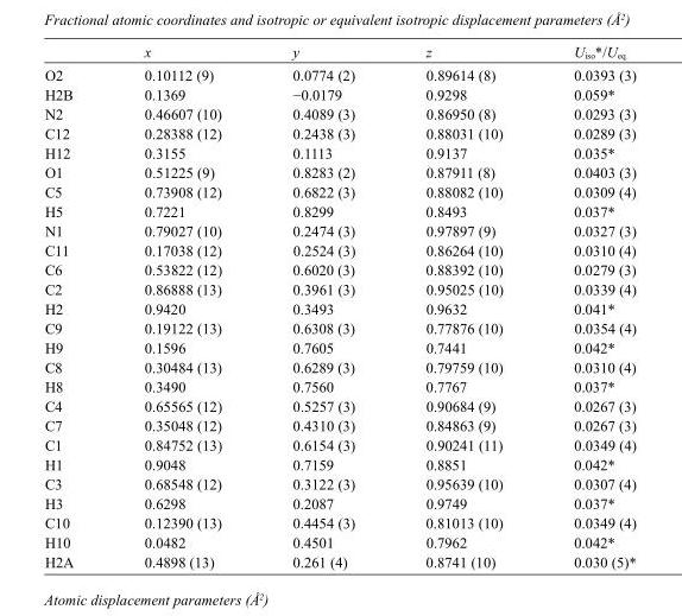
<table><thead><tr><td></td><td>x</td><td>y</td><td>z</td><td>U<sub>iso</sub>*/U<sub>eq</sub></td></tr></thead><tbody><tr><td>O2</td><td>0.10112 (9)</td><td>0.0774 (2)</td><td>0.89614 (8)</td><td>0.0393 (3)</td></tr><tr><td>H2B</td><td>0.1369</td><td>−0.0179</td><td>0.9298</td><td>0.059*</td></tr><tr><td>N2</td><td>0.46607 (10)</td><td>0.4089 (3)</td><td>0.86950 (8)</td><td>0.0293 (3)</td></tr><tr><td>C12</td><td>0.28388 (12)</td><td>0.2438 (3)</td><td>0.88031 (10)</td><td>0.0289 (3)</td></tr><tr><td>H12</td><td>0.3155</td><td>0.1113</td><td>0.9137</td><td>0.035*</td></tr><tr><td>O1</td><td>0.51225 (9)</td><td>0.8283 (2)</td><td>0.87911 (8)</td><td>0.0403 (3)</td></tr><tr><td>C5</td><td>0.73908 (12)</td><td>0.6822 (3)</td><td>0.88082 (10)</td><td>0.0309 (4)</td></tr><tr><td>H5</td><td>0.7221</td><td>0.8299</td><td>0.8493</td><td>0.037*</td></tr><tr><td>N1</td><td>0.79027 (10)</td><td>0.2474 (3)</td><td>0.97897 (9)</td><td>0.0327 (3)</td></tr><tr><td>C11</td><td>0.17038 (12)</td><td>0.2524 (3)</td><td>0.86264 (10)</td><td>0.0310 (4)</td></tr><tr><td>C6</td><td>0.53822 (12)</td><td>0.6020 (3)</td><td>0.88392 (10)</td><td>0.0279 (3)</td></tr><tr><td>C2</td><td>0.86888 (13)</td><td>0.3961 (3)</td><td>0.95025 (10)</td><td>0.0339 (4)</td></tr><tr><td>H2</td><td>0.9420</td><td>0.3493</td><td>0.9632</td><td>0.041*</td></tr><tr><td>C9</td><td>0.19122 (13)</td><td>0.6308 (3)</td><td>0.77876 (10)</td><td>0.0354 (4)</td></tr><tr><td>H9</td><td>0.1596</td><td>0.7605</td><td>0.7441</td><td>0.042*</td></tr><tr><td>C8</td><td>0.30484 (13)</td><td>0.6289 (3)</td><td>0.79759 (10)</td><td>0.0310 (4)</td></tr><tr><td>H8</td><td>0.3490</td><td>0.7560</td><td>0.7767</td><td>0.037*</td></tr><tr><td>C4</td><td>0.65565 (12)</td><td>0.5257 (3)</td><td>0.90684 (9)</td><td>0.0267 (3)</td></tr><tr><td>C7</td><td>0.35048 (12)</td><td>0.4310 (3)</td><td>0.84863 (9)</td><td>0.0267 (3)</td></tr><tr><td>C1</td><td>0.84752 (13)</td><td>0.6154 (3)</td><td>0.90241 (11)</td><td>0.0349 (4)</td></tr><tr><td>H1</td><td>0.9048</td><td>0.7159</td><td>0.8851</td><td>0.042*</td></tr><tr><td>C3</td><td>0.68548 (12)</td><td>0.3122 (3)</td><td>0.95639 (10)</td><td>0.0307 (4)</td></tr><tr><td>H3</td><td>0.6298</td><td>0.2087</td><td>0.9749</td><td>0.037*</td></tr><tr><td>C10</td><td>0.12390 (13)</td><td>0.4454 (3)</td><td>0.81013 (10)</td><td>0.0349 (4)</td></tr><tr><td>H10</td><td>0.0482</td><td>0.4501</td><td>0.7962</td><td>0.042*</td></tr><tr><td>H2A</td><td>0.4898 (13)</td><td>0.261 (4)</td><td>0.8741 (10)</td><td>0.030 (5)*</td></tr></tbody></table>